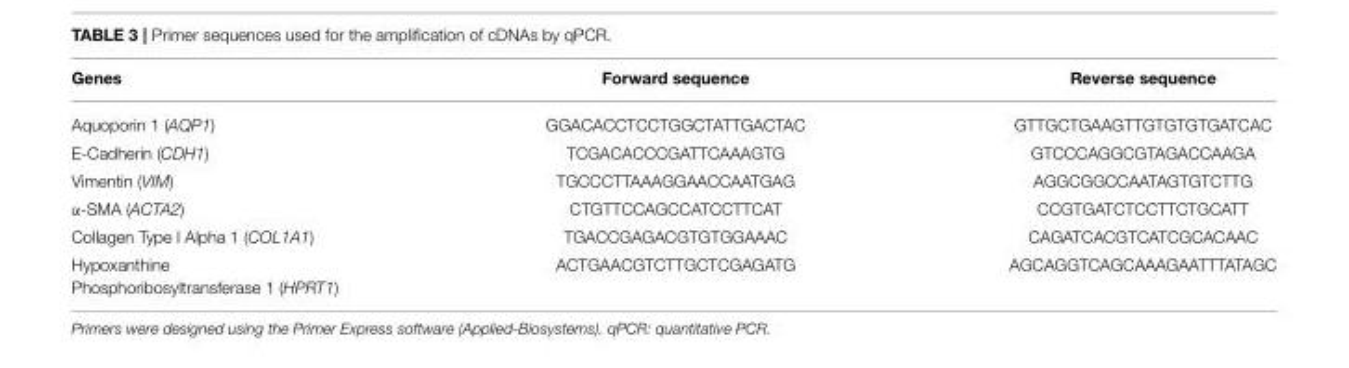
<table><thead><tr><td>Genes</td><td>Forward sequence</td><td>Reverse sequence</td></tr></thead><tbody><tr><td>Aquoporin 1 (AQP1)</td><td>GGACACCTCCTGGCTATTGACTAC</td><td>GTTGCTGAAGTTGTGTGTGATCAC</td></tr><tr><td>E-Cadherin (CDH1)</td><td>TCGACACCCGATTCAAAGTG</td><td>GTCCCAGGCGTAGACCAAGA</td></tr><tr><td>Vimentin (VIM)</td><td>TGCCCTTAAAGGAACCAATGAG</td><td>AGGCGGCCAATAGTGTCTTG</td></tr><tr><td>α-SMA (ACTA2)</td><td>CTGTTCCAGCCATCCTTCAT</td><td>CCGTGATCTCCTTCTGCATT</td></tr><tr><td>Collagen Type I Alpha 1 (COL1A1)</td><td>TGACCGAGACGTGTGGAAAC</td><td>CAGATCACGTCATCGCACAAC</td></tr><tr><td>Hypoxanthine Phosphoribosyltransferase 1 (HPRT1)</td><td>ACTGAACGTCTTGCTCGAGATG</td><td>AGCAGGTCAGCAAAGAATTTATAGC</td></tr></tbody></table>